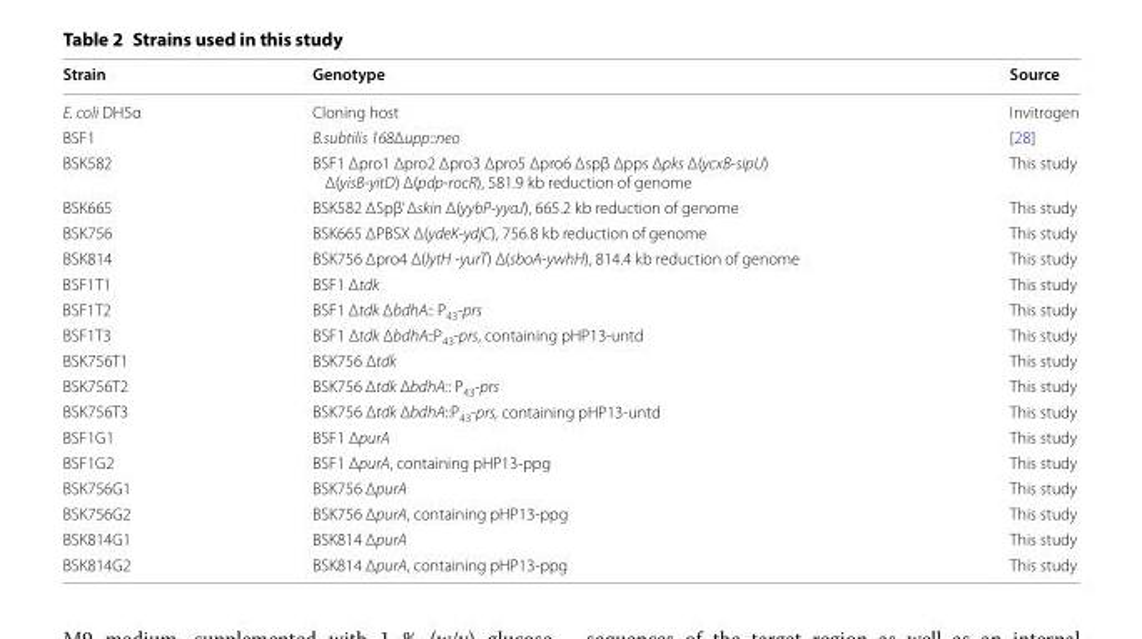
<table><thead><tr><td>Strain</td><td>Genotype</td><td>Source</td></tr></thead><tbody><tr><td>E. coli DH5α</td><td>Cloning host</td><td>Invitrogen</td></tr><tr><td>BSF1</td><td>B.subtilis 168Δupp::neo</td><td>[28]</td></tr><tr><td>BSK582</td><td>BSF1 Δpro1 Δpro2 Δpro3 Δpro5 Δpro6 Δspβ Δpps Δpks Δ(ycxB-sipU) Δ(yisB-yitD) Δ(pdp-rocR), 581.9 kb reduction of genome</td><td>This study</td></tr><tr><td>BSK665</td><td>BSK582 ΔSpβ’ Δskin Δ(yybP-yyaJ), 665.2 kb reduction of genome</td><td>This study</td></tr><tr><td>BSK756</td><td>BSK665 ΔPBSX Δ(ydeK-ydjC), 756.8 kb reduction of genome</td><td>This study</td></tr><tr><td>BSK814</td><td>BSK756 Δpro4 Δ(lytH -yurT) Δ(sboA-ywhH), 814.4 kb reduction of genome</td><td>This study</td></tr><tr><td>BSF1T1</td><td>BSF1 Δtdk</td><td>This study</td></tr><tr><td>BSF1T2</td><td>BSF1 Δtdk ΔbdhA:: P<sub>43</sub>-prs</td><td>This study</td></tr><tr><td>BSF1T3</td><td>BSF1 Δtdk ΔbdhA::P<sub>43</sub>-prs, containing pHP13-untd</td><td>This study</td></tr><tr><td>BSK756T1</td><td>BSK756 Δtdk</td><td>This study</td></tr><tr><td>BSK756T2</td><td>BSK756 Δtdk ΔbdhA:: P<sub>43</sub>-prs</td><td>This study</td></tr><tr><td>BSK756T3</td><td>BSK756 Δtdk ΔbdhA::P<sub>43</sub>-prs, containing pHP13-untd</td><td>This study</td></tr><tr><td>BSF1G1</td><td>BSF1 ΔpurA</td><td>This study</td></tr><tr><td>BSF1G2</td><td>BSF1 ΔpurA, containing pHP13-ppg</td><td>This study</td></tr><tr><td>BSK756G1</td><td>BSK756 ΔpurA</td><td>This study</td></tr><tr><td>BSK756G2</td><td>BSK756 ΔpurA, containing pHP13-ppg</td><td>This study</td></tr><tr><td>BSK814G1</td><td>BSK814 ΔpurA</td><td>This study</td></tr><tr><td>BSK814G2</td><td>BSK814 ΔpurA, containing pHP13-ppg</td><td>This study</td></tr></tbody></table>